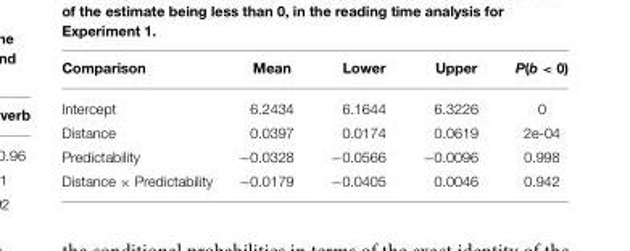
<table><thead><tr><td>Comparison</td><td>Mean</td><td>Lower</td><td>Upper</td><td>P(b &lt; 0)</td></tr></thead><tbody><tr><td>Intercept</td><td>6.2434</td><td>6.1644</td><td>6.3226</td><td>0</td></tr><tr><td>Distance</td><td>0.0397</td><td>0.0174</td><td>0.0619</td><td>2e-04</td></tr><tr><td>Predictability</td><td>−0.0328</td><td>−0.0566</td><td>−0.0096</td><td>0.998</td></tr><tr><td>Distance × Predictability</td><td>−0.0179</td><td>−0.0405</td><td>0.0046</td><td>0.942</td></tr></tbody></table>